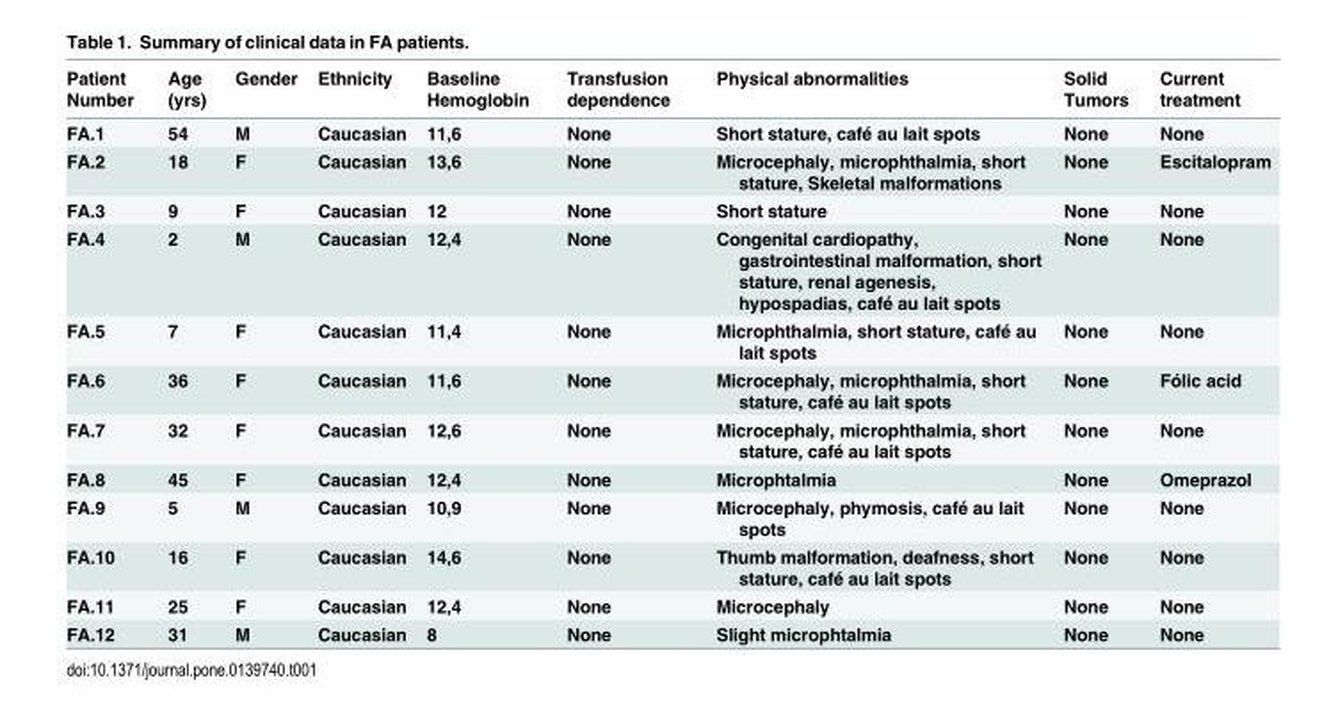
<table><thead><tr><td>Patient Number</td><td>Age (yrs)</td><td>Gender</td><td>Ethnicity</td><td>Baseline Hemoglobin</td><td>Transfusion dependence</td><td>Physical abnormalities</td><td>Solid Tumors</td><td>Current treatment</td></tr></thead><tbody><tr><td>FA.1</td><td>54</td><td>M</td><td>Caucasian</td><td>11,6</td><td>None</td><td>Short stature, café au lait spots</td><td>None</td><td>None</td></tr><tr><td>FA.2</td><td>18</td><td>F</td><td>Caucasian</td><td>13,6</td><td>None</td><td>Microcephaly, microphthalmia, short stature, Skeletal malformations</td><td>None</td><td>Escitalopram</td></tr><tr><td>FA.3</td><td>9</td><td>F</td><td>Caucasian</td><td>12</td><td>None</td><td>Short stature</td><td>None</td><td>None</td></tr><tr><td>FA.4</td><td>2</td><td>M</td><td>Caucasian</td><td>12,4</td><td>None</td><td>Congenital cardiopathy, gastrointestinal malformation, short stature, renal agenesis, hypospadias, café au lait spots</td><td>None</td><td>None</td></tr><tr><td>FA.5</td><td>7</td><td>F</td><td>Caucasian</td><td>11,4</td><td>None</td><td>Microphthalmia, short stature, café au lait spots</td><td>None</td><td>None</td></tr><tr><td>FA.6</td><td>36</td><td>F</td><td>Caucasian</td><td>11,6</td><td>None</td><td>Microcephaly, microphthalmia, short stature, café au lait spots</td><td>None</td><td>Fólic acid</td></tr><tr><td>FA.7</td><td>32</td><td>F</td><td>Caucasian</td><td>12,6</td><td>None</td><td>Microcephaly, microphthalmia, short stature, café au lait spots</td><td>None</td><td>None</td></tr><tr><td>FA.8</td><td>45</td><td>F</td><td>Caucasian</td><td>12,4</td><td>None</td><td>Microphtalmia</td><td>None</td><td>Omeprazol</td></tr><tr><td>FA.9</td><td>5</td><td>M</td><td>Caucasian</td><td>10,9</td><td>None</td><td>Microcephaly, phymosis, café au lait spots</td><td>None</td><td>None</td></tr><tr><td>FA.10</td><td>16</td><td>F</td><td>Caucasian</td><td>14,6</td><td>None</td><td>Thumb malformation, deafness, short stature, café au lait spots</td><td>None</td><td>None</td></tr><tr><td>FA.11</td><td>25</td><td>F</td><td>Caucasian</td><td>12,4</td><td>None</td><td>Microcephaly</td><td>None</td><td>None</td></tr><tr><td>FA.12</td><td>31</td><td>M</td><td>Caucasian</td><td>8</td><td>None</td><td>Slight microphtalmia</td><td>None</td><td>None</td></tr></tbody></table>